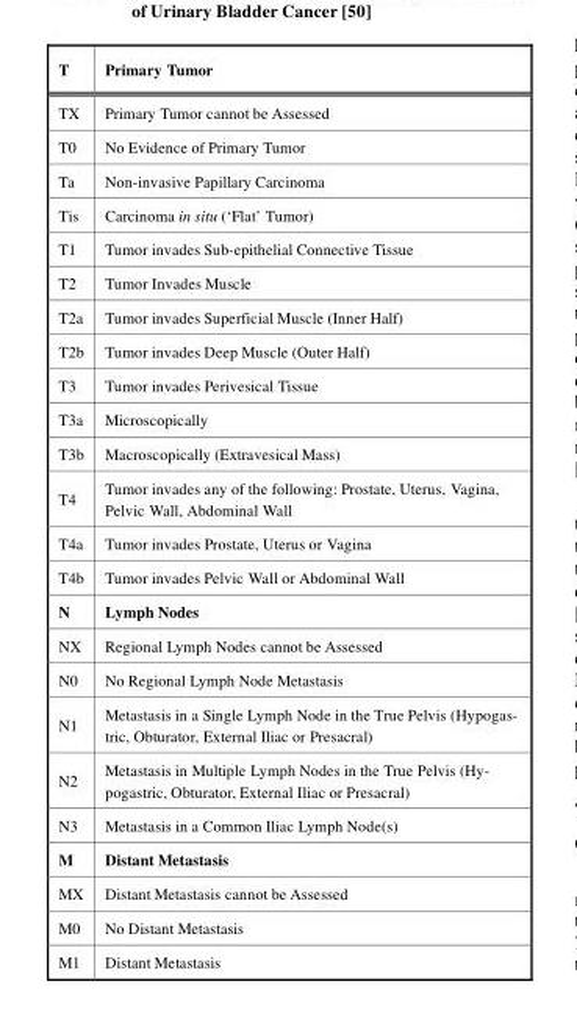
<table><thead><tr><td>T</td><td>Primary Tumor</td></tr></thead><tbody><tr><td>TX</td><td>Primary Tumor cannot be Assessed</td></tr><tr><td>T0</td><td>No Evidence of Primary Tumor</td></tr><tr><td>Ta</td><td>Non-invasive Papillary Carcinoma</td></tr><tr><td>Tis</td><td>Carcinoma in situ (‘Flat’ Tumor)</td></tr><tr><td>T1</td><td>Tumor invades Sub-epithelial Connective Tissue</td></tr><tr><td>T2</td><td>Tumor Invades Muscle</td></tr><tr><td>T2a</td><td>Tumor invades Superficial Muscle (Inner Half)</td></tr><tr><td>T2b</td><td>Tumor invades Deep Muscle (Outer Half)</td></tr><tr><td>T3</td><td>Tumor invades Perivesical Tissue</td></tr><tr><td>T3a</td><td>Microscopically</td></tr><tr><td>T3b</td><td>Macroscopically (Extravesical Mass)</td></tr><tr><td>T4</td><td>Tumor invades any of the following: Prostate, Uterus, Vagina, Pelvic Wall, Abdominal Wall</td></tr><tr><td>T4a</td><td>Tumor invades Prostate, Uterus or Vagina</td></tr><tr><td>T4b</td><td>Tumor invades Pelvic Wall or Abdominal Wall</td></tr><tr><td>N</td><td>Lymph Nodes</td></tr><tr><td>NX</td><td>Regional Lymph Nodes cannot be Assessed</td></tr><tr><td>N0</td><td>No Regional Lymph Node Metastasis</td></tr><tr><td>N1</td><td>Metastasis in a Single Lymph Node in the True Pelvis (Hypogas- tric, Obturator, External Iliac or Presacral)</td></tr><tr><td>N2</td><td>Metastasis in Multiple Lymph Nodes in the True Pelvis (Hy- pogastric, Obturator, External Iliac or Presacral)</td></tr><tr><td>N3</td><td>Metastasis in a Common Iliac Lymph Node(s)</td></tr><tr><td>M</td><td>Distant Metastasis</td></tr><tr><td>MX</td><td>Distant Metastasis cannot be Assessed</td></tr><tr><td>M0</td><td>No Distant Metastasis</td></tr><tr><td>M1</td><td>Distant Metastasis</td></tr></tbody></table>